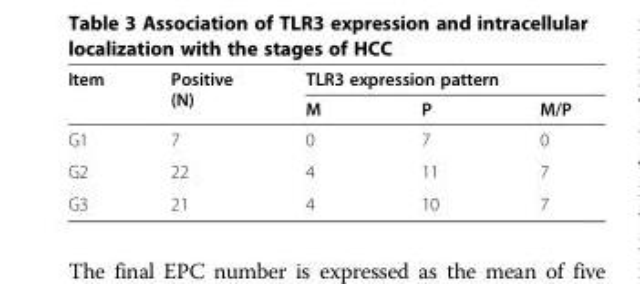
<table><thead><tr><td rowspan="2">Item</td><td rowspan="2">Positive (N)</td><td colspan="3">TLR3 expression pattern</td></tr><tr><td>M</td><td>P</td><td>M/P</td></tr></thead><tbody><tr><td>G1</td><td>7</td><td>0</td><td>7</td><td>0</td></tr><tr><td>G2</td><td>22</td><td>4</td><td>11</td><td>7</td></tr><tr><td>G3</td><td>21</td><td>4</td><td>10</td><td>7</td></tr></tbody></table>